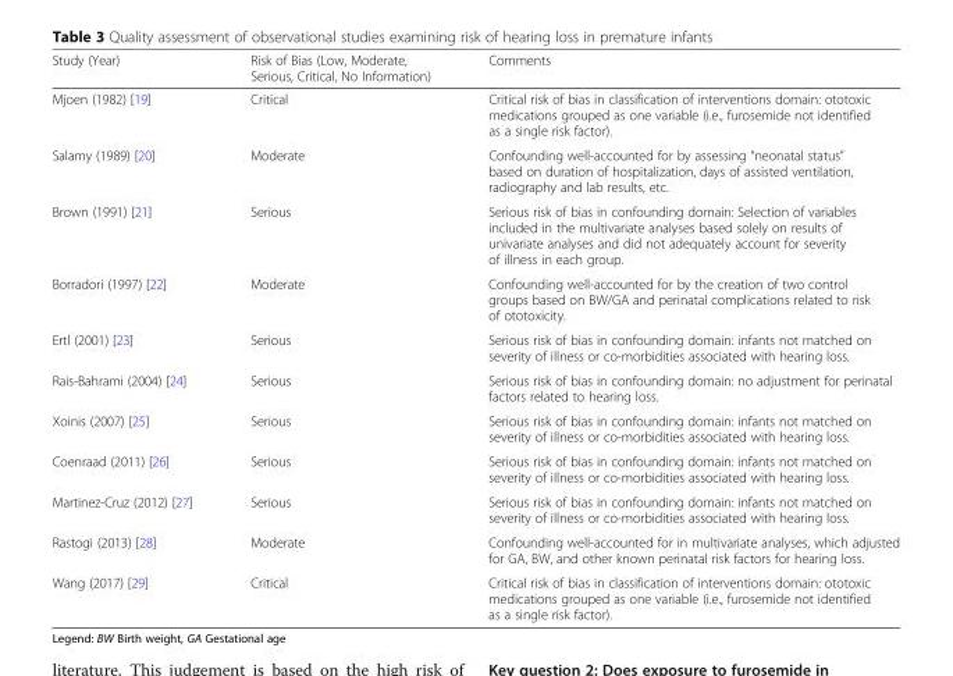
<table><thead><tr><td>Study (Year)</td><td>Risk of Bias (Low, Moderate, Serious, Critical, No Information)</td><td>Comments</td></tr></thead><tbody><tr><td>Mjoen (1982) [19]</td><td>Critical</td><td>Critical risk of bias in classification of interventions domain: ototoxic medications grouped as one variable (i.e., furosemide not identified as a single risk factor).</td></tr><tr><td>Salamy (1989) [20]</td><td>Moderate</td><td>Confounding well-accounted for by assessing “neonatal status” based on duration of hospitalization, days of assisted ventilation, radiography and lab results, etc.</td></tr><tr><td>Brown (1991) [21]</td><td>Serious</td><td>Serious risk of bias in confounding domain: Selection of variables included in the multivariate analyses based solely on results of univariate analyses and did not adequately account for severity of illness in each group.</td></tr><tr><td>Borradori (1997) [22]</td><td>Moderate</td><td>Confounding well-accounted for by the creation of two control groups based on BW/GA and perinatal complications related to risk of ototoxicity.</td></tr><tr><td>Ertl (2001) [23]</td><td>Serious</td><td>Serious risk of bias in confounding domain: infants not matched on severity of illness or co-morbidities associated with hearing loss.</td></tr><tr><td>Rais-Bahrami (2004) [24]</td><td>Serious</td><td>Serious risk of bias in confounding domain: no adjustment for perinatal factors related to hearing loss.</td></tr><tr><td>Xoinis (2007) [25]</td><td>Serious</td><td>Serious risk of bias in confounding domain: infants not matched on severity of illness or co-morbidities associated with hearing loss.</td></tr><tr><td>Coenraad (2011) [26]</td><td>Serious</td><td>Serious risk of bias in confounding domain: infants not matched on severity of illness or co-morbidities associated with hearing loss.</td></tr><tr><td>Martinez-Cruz (2012) [27]</td><td>Serious</td><td>Serious risk of bias in confounding domain: infants not matched on severity of illness or co-morbidities associated with hearing loss.</td></tr><tr><td>Rastogi (2013) [28]</td><td>Moderate</td><td>Confounding well-accounted for in multivariate analyses, which adjusted for GA, BW, and other known perinatal risk factors for hearing loss.</td></tr><tr><td>Wang (2017) [29]</td><td>Critical</td><td>Critical risk of bias in classification of interventions domain: ototoxic medications grouped as one variable (i.e., furosemide not identified as a single risk factor).</td></tr></tbody></table>